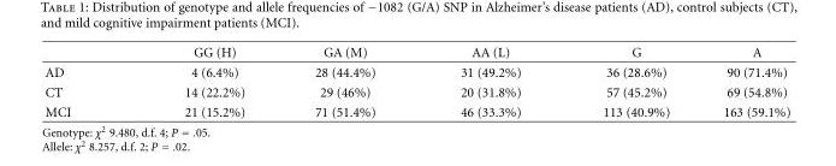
<table><thead><tr><td></td><td>GG (H)</td><td>GA (M)</td><td>AA (L)</td><td>G</td><td>A</td></tr></thead><tbody><tr><td>AD</td><td>4 (6.4%)</td><td>28 (44.4%)</td><td>31 (49.2%)</td><td>36 (28.6%)</td><td>90 (71.4%)</td></tr><tr><td>CT</td><td>14 (22.2%)</td><td>29 (46%)</td><td>20 (31.8%)</td><td>57 (45.2%)</td><td>69 (54.8%)</td></tr><tr><td>MCI</td><td>21 (15.2%)</td><td>71 (51.4%)</td><td>46 (33.3%)</td><td>113 (40.9%)</td><td>163 (59.1%)</td></tr></tbody></table>